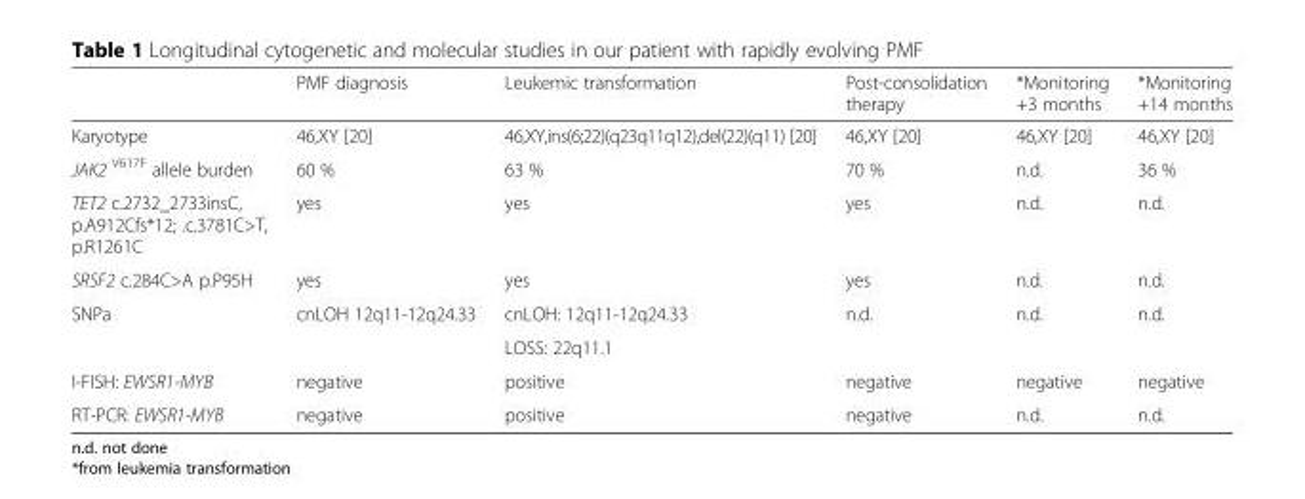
<table><thead><tr><td></td><td>PMF diagnosis</td><td>Leukemic transformation</td><td>Post-consolidation therapy</td><td>*Monitoring +3 months</td><td>*Monitoring +14 months</td></tr></thead><tbody><tr><td>Karyotype</td><td>46,XY [20]</td><td>46,XY,ins(6;22)(q23q11q12),del(22)(q11) [20]</td><td>46,XY [20]</td><td>46,XY [20]</td><td>46,XY [20]</td></tr><tr><td>JAK2 <sup>V617F</sup> allele burden</td><td>60 %</td><td>63 %</td><td>70 %</td><td>n.d.</td><td>36 %</td></tr><tr><td>TET2 c.2732_2733insC, p.A912Cfs*12; .c.3781C&gt;T, p.R1261C</td><td>yes</td><td>yes</td><td>yes</td><td>n.d.</td><td>n.d.</td></tr><tr><td>SRSF2 c.284C&gt;A p.P95H</td><td>yes</td><td>yes</td><td>yes</td><td>n.d.</td><td>n.d.</td></tr><tr><td rowspan="2">SNPa</td><td rowspan="2">cnLOH 12q11-12q24.33</td><td>cnLOH: 12q11-12q24.33</td><td rowspan="2">n.d.</td><td rowspan="2">n.d.</td><td rowspan="2">n.d.</td></tr><tr><td>LOSS: 22q11.1</td></tr><tr><td>I-FISH: EWSR1-MYB</td><td>negative</td><td>positive</td><td>negative</td><td>negative</td><td>negative</td></tr><tr><td>RT-PCR: EWSR1-MYB</td><td>negative</td><td>positive</td><td>negative</td><td>n.d.</td><td>n.d.</td></tr></tbody></table>